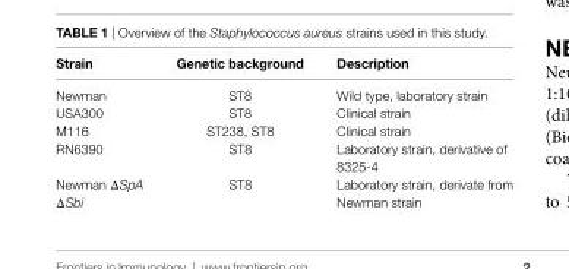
<table><thead><tr><td>strain</td><td>genetic background</td><td>Description</td></tr></thead><tbody><tr><td>Newman</td><td>ST8</td><td>Wild type, laboratory strain</td></tr><tr><td>USA300</td><td>ST8</td><td>Clinical strain</td></tr><tr><td>M116</td><td>ST238, ST8</td><td>Clinical strain</td></tr><tr><td>RN6390</td><td>ST8</td><td>Laboratory strain, derivative of 8325-4</td></tr><tr><td>Newman ΔSpA ΔSbi</td><td>ST8</td><td>Laboratory strain, derivate from Newman strain</td></tr></tbody></table>